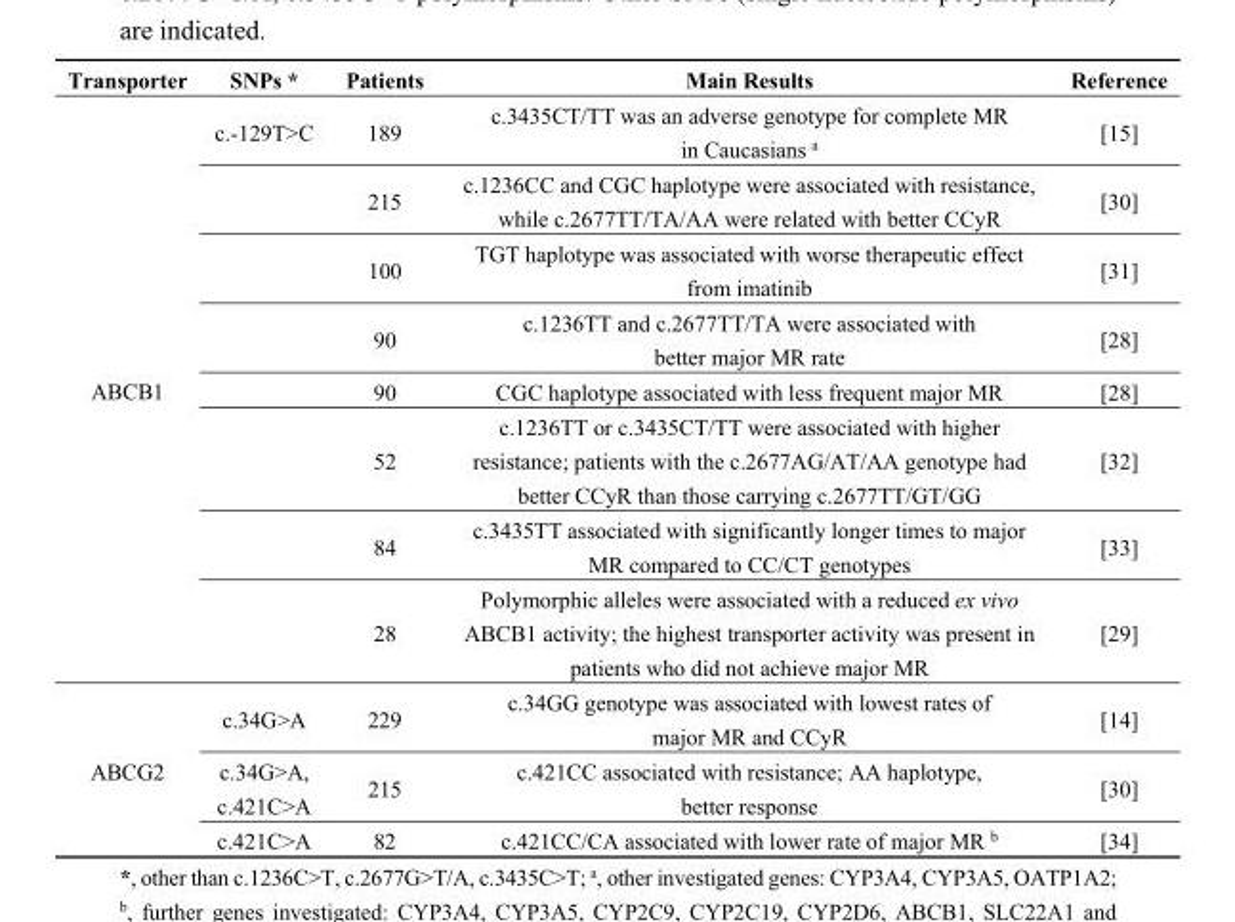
<table><thead><tr><td>Transporter</td><td>SNPs *</td><td>Patients</td><td>Main Results</td><td>Reference</td></tr></thead><tbody><tr><td rowspan="8">ABCB1</td><td>c.-129T&gt;C</td><td>189</td><td>c.3435CT/TT was an adverse genotype for complete MR in Caucasians <sup>a</sup></td><td>[15]</td></tr><tr><td></td><td>215</td><td>c.1236CC and CGC haplotype were associated with resistance, while c.2677TT/TA/AA were related with better CCyR</td><td>[30]</td></tr><tr><td></td><td>100</td><td>TGT haplotype was associated with worse therapeutic effect from imatinib</td><td>[31]</td></tr><tr><td></td><td>90</td><td>c.1236TT and c.2677TT/TA were associated with better major MR rate</td><td>[28]</td></tr><tr><td></td><td>90</td><td>CGC haplotype associated with less frequent major MR</td><td>[28]</td></tr><tr><td></td><td>52</td><td>c.1236TT or c.3435CT/TT were associated with higher resistance; patients with the c.2677AG/AT/AA genotype had better CCyR than those carrying c.2677TT/GT/GG</td><td>[32]</td></tr><tr><td></td><td>84</td><td>c.3435TT associated with significantly longer times to major MR compared to CC/CT genotypes</td><td>[33]</td></tr><tr><td></td><td>28</td><td>Polymorphic alleles were associated with a reduced ex vivo ABCB1 activity; the highest transporter activity was present in patients who did not achieve major MR</td><td>[29]</td></tr><tr><td rowspan="3">ABCG2</td><td>c.34G&gt;A</td><td>229</td><td>c.34GG genotype was associated with lowest rates of major MR and CCyR</td><td>[14]</td></tr><tr><td>c.34G&gt;A, c.421C&gt;A</td><td>215</td><td>c.421CC associated with resistance; AA haplotype, better response</td><td>[30]</td></tr><tr><td>c.421C&gt;A</td><td>82</td><td>c.421CC/CA associated with lower rate of major MR <sup>b</sup></td><td>[34]</td></tr></tbody></table>